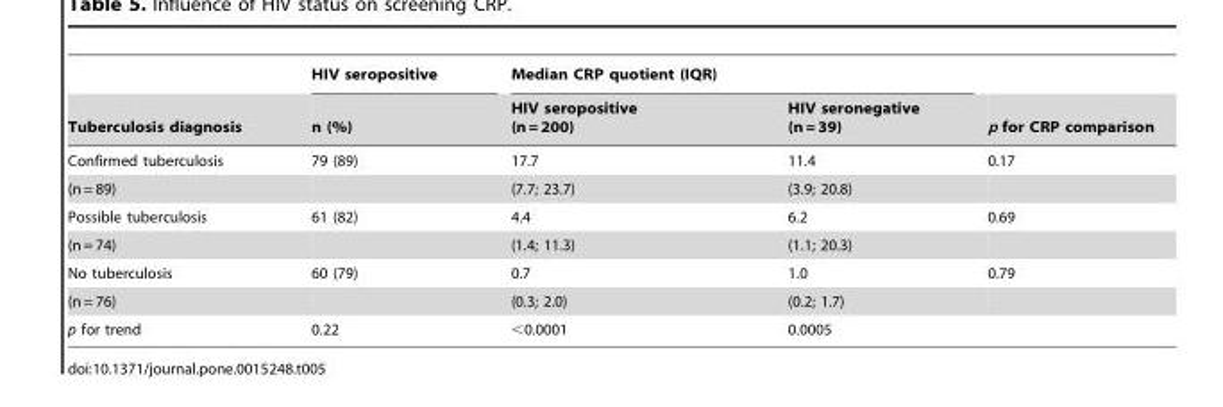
<table><thead><tr><td rowspan="2">Tuberculosis diagnosis</td><td rowspan="2">HIV seropositive n (%)</td><td colspan="2">Median CRP quotient (IQR)</td><td rowspan="2">p for CRP comparison</td></tr><tr><td>HIV seropositive (n = 200)</td><td>HIV seronegative (n = 39)</td></tr></thead><tbody><tr><td>Confirmed tuberculosis</td><td>79 (89)</td><td>17.7</td><td>11.4</td><td>0.17</td></tr><tr><td>(n = 89)</td><td></td><td>(7.7; 23.7)</td><td>(3.9; 20.8)</td><td></td></tr><tr><td>Possible tuberculosis</td><td>61 (82)</td><td>4.4</td><td>6.2</td><td>0.69</td></tr><tr><td>(n = 74)</td><td></td><td>(1.4; 11.3)</td><td>(1.1; 20.3)</td><td></td></tr><tr><td>No tuberculosis</td><td>60 (79)</td><td>0.7</td><td>1.0</td><td>0.79</td></tr><tr><td>(n = 76)</td><td></td><td>(0.3; 2.0)</td><td>(0.2; 1.7)</td><td></td></tr><tr><td>p for trend</td><td>0.22</td><td>&lt;0.0001</td><td>0.0005</td><td></td></tr></tbody></table>